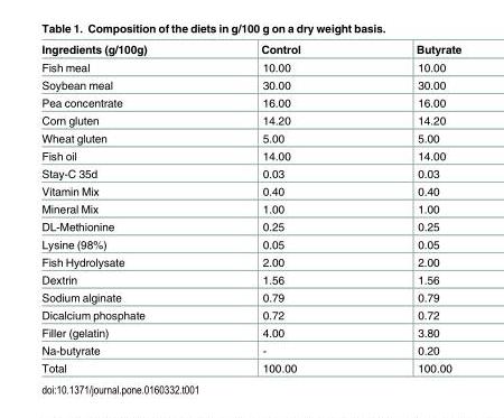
<table><thead><tr><td>Ingredients (g/100g)</td><td>Control</td><td>Butyrate</td></tr></thead><tbody><tr><td>Fish meal</td><td>10.00</td><td>10.00</td></tr><tr><td>Soybean meal</td><td>30.00</td><td>30.00</td></tr><tr><td>Pea concentrate</td><td>16.00</td><td>16.00</td></tr><tr><td>Corn gluten</td><td>14.20</td><td>14.20</td></tr><tr><td>Wheat gluten</td><td>5.00</td><td>5.00</td></tr><tr><td>Fish oil</td><td>14.00</td><td>14.00</td></tr><tr><td>Stay-C 35d</td><td>0.03</td><td>0.03</td></tr><tr><td>Vitamin Mix</td><td>0.40</td><td>0.40</td></tr><tr><td>Mineral Mix</td><td>1.00</td><td>1.00</td></tr><tr><td>DL-Methionine</td><td>0.25</td><td>0.25</td></tr><tr><td>Lysine (98%)</td><td>0.05</td><td>0.05</td></tr><tr><td>Fish Hydrolysate</td><td>2.00</td><td>2.00</td></tr><tr><td>Dextrin</td><td>1.56</td><td>1.56</td></tr><tr><td>Sodium alginate</td><td>0.79</td><td>0.79</td></tr><tr><td>Dicalcium phosphate</td><td>0.72</td><td>0.72</td></tr><tr><td>Filler (gelatin)</td><td>4.00</td><td>3.80</td></tr><tr><td>Na-butyrate</td><td>-</td><td>0.20</td></tr><tr><td>Total</td><td>100.00</td><td>100.00</td></tr></tbody></table>